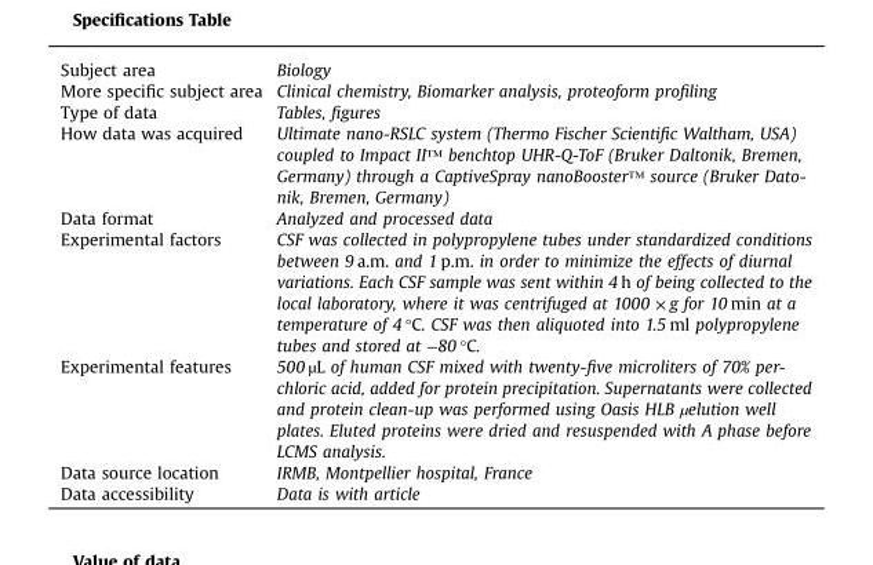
<table><tbody><tr><td>Subject area</td><td>Biology</td></tr><tr><td>More specific subject area</td><td>Clinical chemistry, Biomarker analysis, proteoform profiling</td></tr><tr><td>Type of data</td><td>Tables, figures</td></tr><tr><td>How data was acquired</td><td>Ultimate nano-RSLC system (Thermo Fischer Scientific Waltham, USA) coupled to Impact II™ benchtop UHR-Q-ToF (Bruker Daltonik, Bremen, Germany) through a CaptiveSpray nanoBooster™ source (Bruker Dato- nik, Bremen, Germany)</td></tr><tr><td>Data format</td><td>Analyzed and processed data</td></tr><tr><td>Experimental factors</td><td>CSF was collected in polypropylene tubes under standardized conditions between 9 a.m. and 1 p.m. in order to minimize the effects of diurnal variations. Each CSF sample was sent within 4 h of being collected to the local laboratory, where it was centrifuged at 1000 × g for 10 min at a temperature of 4 °C. CSF was then aliquoted into 1.5 ml polypropylene tubes and stored at −80 °C.</td></tr><tr><td>Experimental features</td><td>500 µL of human CSF mixed with twenty-five microliters of 70% per- chloric acid, added for protein precipitation. Supernatants were collected and protein clean-up was performed using Oasis HLB µelution well plates. Eluted proteins were dried and resuspended with A phase before LCMS analysis.</td></tr><tr><td>Data source location</td><td>IRMB, Montpellier hospital, France</td></tr><tr><td>Data accessibility</td><td>Data is with article</td></tr></tbody></table>